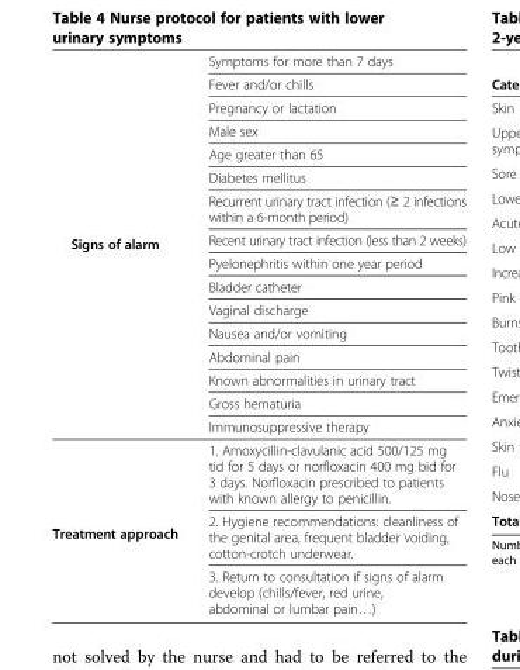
<table><tbody><tr><td rowspan="16">Signs of alarm</td><td>Symptoms for more than 7 days</td></tr><tr><td>Fever and/or chills</td></tr><tr><td>Pregnancy or lactation</td></tr><tr><td>Male sex</td></tr><tr><td>Age greater than 65</td></tr><tr><td>Diabetes mellitus</td></tr><tr><td>Recurrent urinary tract infection (≥ 2 infections within a 6-month period)</td></tr><tr><td>Recent urinary tract infection (less than 2 weeks)</td></tr><tr><td>Pyelonephritis within one year period</td></tr><tr><td>Bladder catheter</td></tr><tr><td>Vaginal discharge</td></tr><tr><td>Nausea and/or vomiting</td></tr><tr><td>Abdominal pain</td></tr><tr><td>Known abnormalities in urinary tract</td></tr><tr><td>Gross hematuria</td></tr><tr><td>Immunosuppressive therapy</td></tr><tr><td rowspan="3">Treatment approach</td><td>1. Amoxycillin-clavulanic acid 500/125 mg tid for 5 days or norfloxacin 400 mg bid for 3 days. Norfloxacin prescribed to patients with known allergy to penicillin.</td></tr><tr><td>2. Hygiene recommendations: cleanliness of the genital area, frequent bladder voiding, cotton-crotch underwear.</td></tr><tr><td>3. Return to consultation if signs of alarm develop (chills/fever, red urine, abdominal or lumbar pain…)</td></tr></tbody></table>